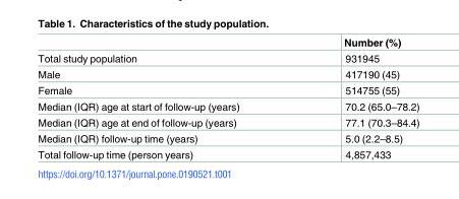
<table><thead><tr><td></td><td>Number (%)</td></tr></thead><tbody><tr><td>Total study population</td><td>931945</td></tr><tr><td>Male</td><td>417190 (45)</td></tr><tr><td>Female</td><td>514755 (55)</td></tr><tr><td>Median (IQR) age at start of follow-up (years)</td><td>70.2 (65.0–78.2)</td></tr><tr><td>Median (IQR) age at end of follow-up (years)</td><td>77.1 (70.3–84.4)</td></tr><tr><td>Median (IQR) follow-up time (years)</td><td>5.0 (2.2–8.5)</td></tr><tr><td>Total follow-up time (person years)</td><td>4,857,433</td></tr></tbody></table>